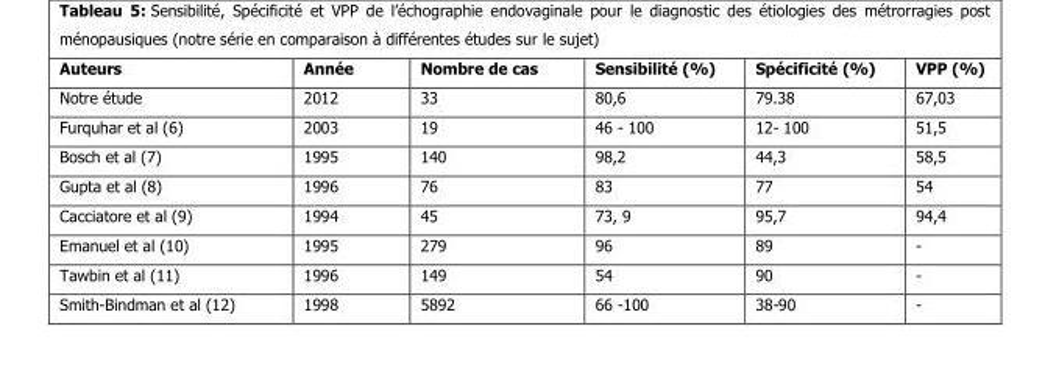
<table><thead><tr><td>Auteurs</td><td>Année</td><td>Nombre de cas</td><td>Sensibilité (%)</td><td>Spécificité (%)</td><td>VPP (%)</td></tr></thead><tbody><tr><td>Notre étude</td><td>2012</td><td>33</td><td>80,6</td><td>79.38</td><td>67,03</td></tr><tr><td>Furquhar et al (6)</td><td>2003</td><td>19</td><td>46 - 100</td><td>12- 100</td><td>51,5</td></tr><tr><td>Bosch et al (7)</td><td>1995</td><td>140</td><td>98,2</td><td>44,3</td><td>58,5</td></tr><tr><td>Gupta et al (8)</td><td>1996</td><td>76</td><td>83</td><td>77</td><td>54</td></tr><tr><td>Cacciatore et al (9)</td><td>1994</td><td>45</td><td>73, 9</td><td>95,7</td><td>94,4</td></tr><tr><td>Emanuel et al (10)</td><td>1995</td><td>279</td><td>96</td><td>89</td><td>-</td></tr><tr><td>Tawbin et al (11)</td><td>1996</td><td>149</td><td>54</td><td>90</td><td>-</td></tr><tr><td>Smith-Bindman et al (12)</td><td>1998</td><td>5892</td><td>66 -100</td><td>38-90</td><td>-</td></tr></tbody></table>